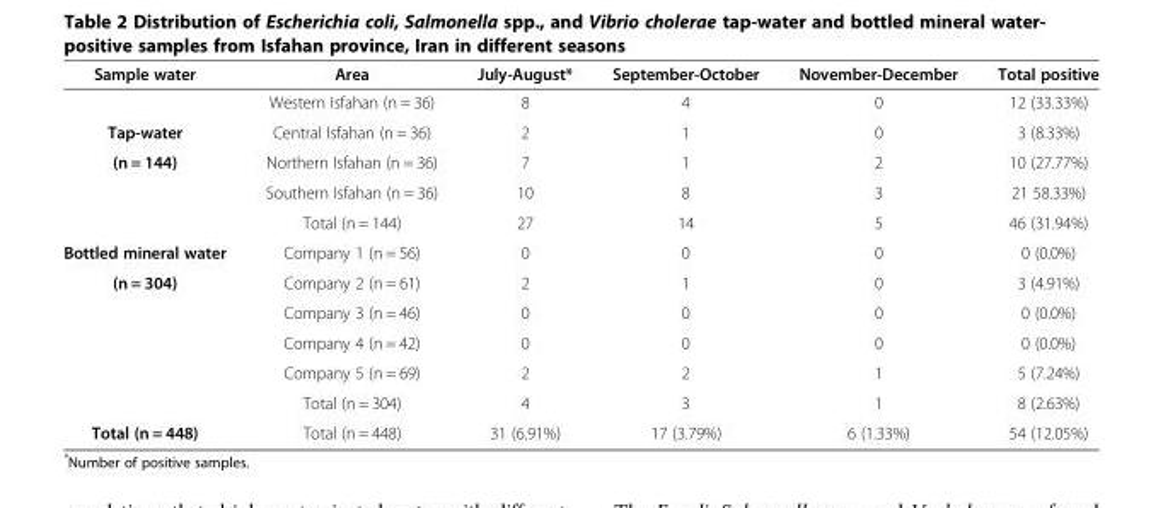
<table><thead><tr><td>Sample water</td><td>Area</td><td>July-August*</td><td>September-October</td><td>November-December</td><td>Total positive</td></tr></thead><tbody><tr><td></td><td>Western Isfahan (n = 36)</td><td>8</td><td>4</td><td>0</td><td>12 (33.33%)</td></tr><tr><td>Tap-water</td><td>Central Isfahan (n = 36)</td><td>2</td><td>1</td><td>0</td><td>3 (8.33%)</td></tr><tr><td rowspan="3">(n = 144)</td><td>Northern Isfahan (n = 36)</td><td>7</td><td>1</td><td>2</td><td>10 (27.77%)</td></tr><tr><td>Southern Isfahan (n = 36)</td><td>10</td><td>8</td><td>3</td><td>21 58.33%)</td></tr><tr><td>Total (n = 144)</td><td>27</td><td>14</td><td>5</td><td>46 (31.94%)</td></tr><tr><td>Bottled mineral water</td><td>Company 1 (n = 56)</td><td>0</td><td>0</td><td>0</td><td>0 (0.0%)</td></tr><tr><td rowspan="5">(n = 304)</td><td>Company 2 (n = 61)</td><td>2</td><td>1</td><td>0</td><td>3 (4.91%)</td></tr><tr><td>Company 3 (n = 46)</td><td>0</td><td>0</td><td>0</td><td>0 (0.0%)</td></tr><tr><td>Company 4 (n = 42)</td><td>0</td><td>0</td><td>0</td><td>0 (0.0%)</td></tr><tr><td>Company 5 (n = 69)</td><td>2</td><td>2</td><td>1</td><td>5 (7.24%)</td></tr><tr><td>Total (n = 304)</td><td>4</td><td>3</td><td>1</td><td>8 (2.63%)</td></tr><tr><td>Total (n = 448)</td><td>Total (n = 448)</td><td>31 (6.91%)</td><td>17 (3.79%)</td><td>6 (1.33%)</td><td>54 (12.05%)</td></tr></tbody></table>